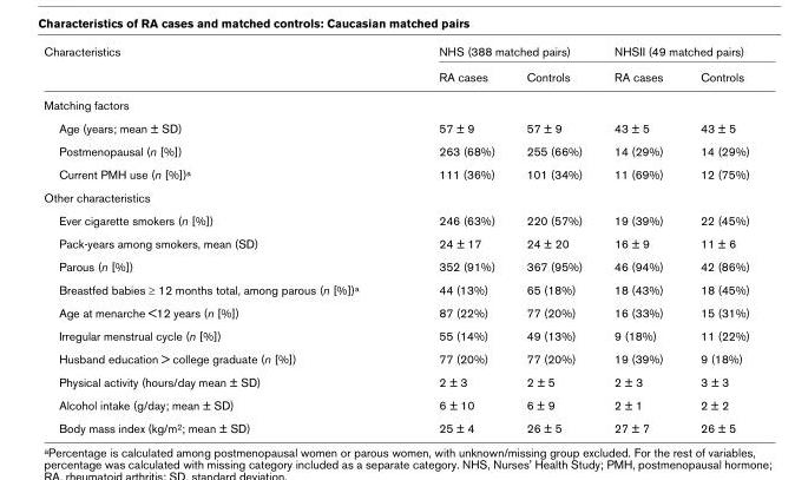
<table><thead><tr><td rowspan="2">Characteristics</td><td colspan="2">NHS (388 matched pairs)</td><td colspan="2">NHSII (49 matched pairs)</td></tr><tr><td>RA cases</td><td>Controls</td><td>RA cases</td><td>Controls</td></tr></thead><tbody><tr><td colspan="5">Matching factors</td></tr><tr><td>Age (years; mean ± SD)</td><td>57 ± 9</td><td>57 ± 9</td><td>43 ± 5</td><td>43 ± 5</td></tr><tr><td>Postmenopausal (n [%])</td><td>263 (68%)</td><td>255 (66%)</td><td>14 (29%)</td><td>14 (29%)</td></tr><tr><td>Current PMH use (n [%])<sup>a</sup></td><td>111 (36%)</td><td>101 (34%)</td><td>11 (69%)</td><td>12 (75%)</td></tr><tr><td colspan="5">Other characteristics</td></tr><tr><td>Ever cigarette smokers (n [%])</td><td>246 (63%)</td><td>220 (57%)</td><td>19 (39%)</td><td>22 (45%)</td></tr><tr><td>Pack-years among smokers, mean (SD)</td><td>24 ± 17</td><td>24 ± 20</td><td>16 ± 9</td><td>11 ± 6</td></tr><tr><td>Parous (n [%])</td><td>352 (91%)</td><td>367 (95%)</td><td>46 (94%)</td><td>42 (86%)</td></tr><tr><td>Breastfed babies ≥ 12 months total, among parous (n [%])<sup>a</sup></td><td>44 (13%)</td><td>65 (18%)</td><td>18 (43%)</td><td>18 (45%)</td></tr><tr><td>Age at menarche &lt;12 years (n [%])</td><td>87 (22%)</td><td>77 (20%)</td><td>16 (33%)</td><td>15 (31%)</td></tr><tr><td>Irregular menstrual cycle (n [%])</td><td>55 (14%)</td><td>49 (13%)</td><td>9 (18%)</td><td>11 (22%)</td></tr><tr><td>Husband education &gt; college graduate (n [%])</td><td>77 (20%)</td><td>77 (20%)</td><td>19 (39%)</td><td>9 (18%)</td></tr><tr><td>Physical activity (hours/day mean ± SD)</td><td>2 ± 3</td><td>2 ± 5</td><td>2 ± 3</td><td>3 ± 3</td></tr><tr><td>Alcohol intake (g/day; mean ± SD)</td><td>6 ± 10</td><td>6 ± 9</td><td>2 ± 1</td><td>2 ± 2</td></tr><tr><td>Body mass index (kg/m<sup>2</sup>; mean ± SD)</td><td>25 ± 4</td><td>26 ± 5</td><td>27 ± 7</td><td>26 ± 5</td></tr></tbody></table>